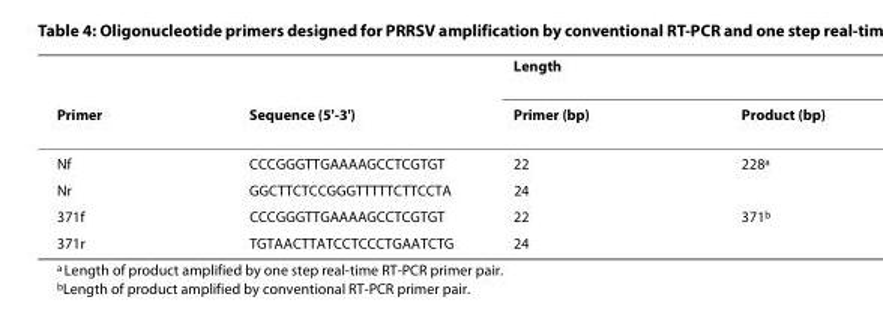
<table><thead><tr><td rowspan="2">Primer</td><td rowspan="2">Sequence (5&#x27;-3&#x27;)</td><td colspan="2">Length</td></tr><tr><td>Primer (bp)</td><td>Product (bp)</td></tr></thead><tbody><tr><td>Nf</td><td>CCCGGGTTGAAAAGCCTCGTGT</td><td>22</td><td>228<sup>a</sup></td></tr><tr><td>Nr</td><td>GGCTTCTCCGGGTTTTTCTTCCTA</td><td>24</td><td></td></tr><tr><td>371f</td><td>CCCGGGTTGAAAAGCCTCGTGT</td><td>22</td><td>371<sup>b</sup></td></tr><tr><td>371r</td><td>TGTAACTTATCCTCCCTGAATCTG</td><td>24</td><td></td></tr></tbody></table>